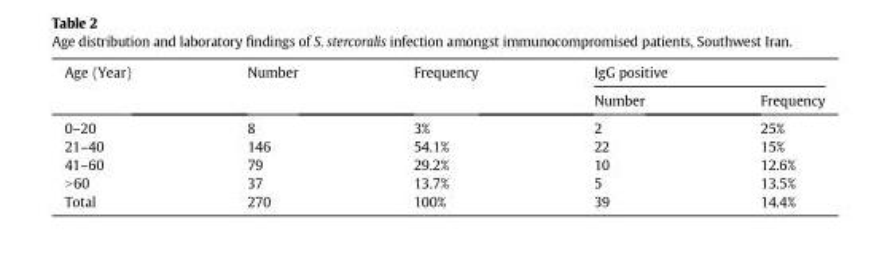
<table><thead><tr><td rowspan="2">Age (Year)</td><td rowspan="2">Number</td><td rowspan="2">Frequency</td><td colspan="2">IgG positive</td></tr><tr><td>Number</td><td>Frequency</td></tr></thead><tbody><tr><td>0–20</td><td>8</td><td>3%</td><td>2</td><td>25%</td></tr><tr><td>21–40</td><td>146</td><td>54.1%</td><td>22</td><td>15%</td></tr><tr><td>41–60</td><td>79</td><td>29.2%</td><td>10</td><td>12.6%</td></tr><tr><td>&gt;60</td><td>37</td><td>13.7%</td><td>5</td><td>13.5%</td></tr><tr><td>Total</td><td>270</td><td>100%</td><td>39</td><td>14.4%</td></tr></tbody></table>